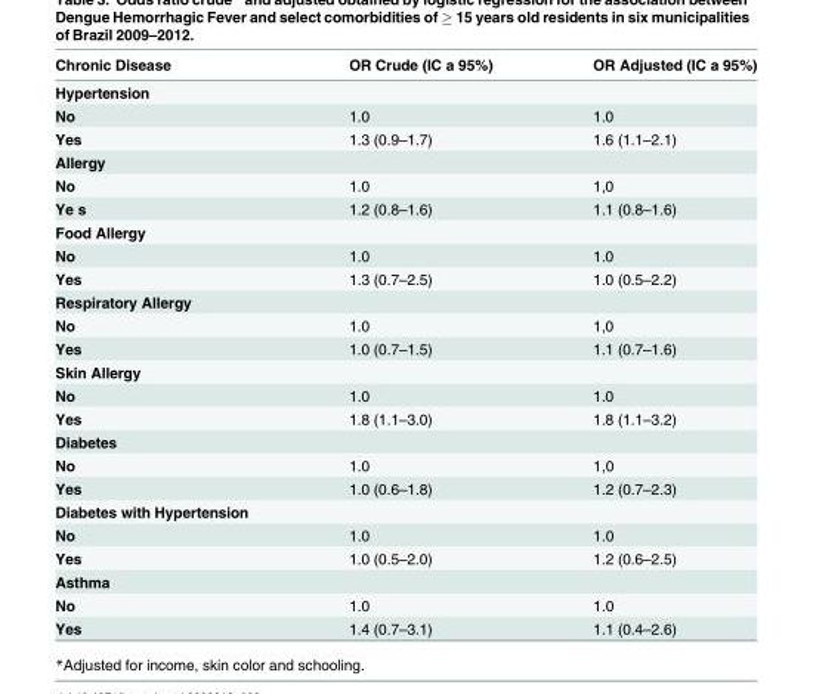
<table><thead><tr><td>Chronic Disease</td><td>OR Crude (IC a 95%)</td><td>OR Adjusted (IC a 95%)</td></tr></thead><tbody><tr><td colspan="3">Hypertension</td></tr><tr><td>No</td><td>1.0</td><td>1.0</td></tr><tr><td>Yes</td><td>1.3 (0.9–1.7)</td><td>1.6 (1.1–2.1)</td></tr><tr><td colspan="3">Allergy</td></tr><tr><td>No</td><td>1.0</td><td>1,0</td></tr><tr><td>Ye s</td><td>1.2 (0.8–1.6)</td><td>1.1 (0.8–1.6)</td></tr><tr><td colspan="3">Food Allergy</td></tr><tr><td>No</td><td>1.0</td><td>1.0</td></tr><tr><td>Yes</td><td>1.3 (0.7–2.5)</td><td>1.0 (0.5–2.2)</td></tr><tr><td colspan="3">Respiratory Allergy</td></tr><tr><td>No</td><td>1.0</td><td>1,0</td></tr><tr><td>Yes</td><td>1.0 (0.7–1.5)</td><td>1.1 (0.7–1.6)</td></tr><tr><td colspan="3">Skin Allergy</td></tr><tr><td>No</td><td>1.0</td><td>1.0</td></tr><tr><td>Yes</td><td>1.8 (1.1–3.0)</td><td>1.8 (1.1–3.2)</td></tr><tr><td colspan="3">Diabetes</td></tr><tr><td>No</td><td>1.0</td><td>1,0</td></tr><tr><td>Yes</td><td>1.0 (0.6–1.8)</td><td>1.2 (0.7–2.3)</td></tr><tr><td colspan="3">Diabetes with Hypertension</td></tr><tr><td>No</td><td>1.0</td><td>1.0</td></tr><tr><td>Yes</td><td>1.0 (0.5–2.0)</td><td>1.2 (0.6–2.5)</td></tr><tr><td colspan="3">Asthma</td></tr><tr><td>No</td><td>1.0</td><td>1.0</td></tr><tr><td>Yes</td><td>1.4 (0.7–3.1)</td><td>1.1 (0.4–2.6)</td></tr></tbody></table>